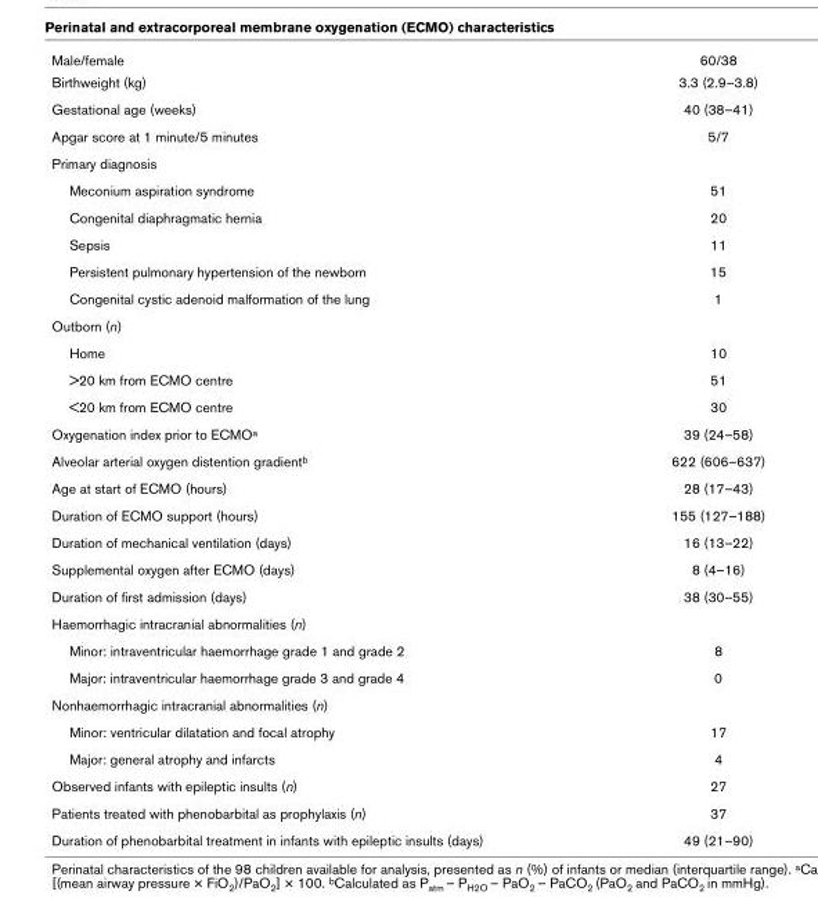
<table><tbody><tr><td>Male/female</td><td>60/38</td></tr><tr><td>Birthweight (kg)</td><td>3.3 (2.9–3.8)</td></tr><tr><td>Gestational age (weeks)</td><td>40 (38–41)</td></tr><tr><td>Apgar score at 1 minute/5 minutes</td><td>5/7</td></tr><tr><td colspan="2">Primary diagnosis</td></tr><tr><td>Meconium aspiration syndrome</td><td>51</td></tr><tr><td>Congenital diaphragmatic hernia</td><td>20</td></tr><tr><td>Sepsis</td><td>11</td></tr><tr><td>Persistent pulmonary hypertension of the newborn</td><td>15</td></tr><tr><td>Congenital cystic adenoid malformation of the lung</td><td>1</td></tr><tr><td colspan="2">Outborn (n)</td></tr><tr><td>Home</td><td>10</td></tr><tr><td>&gt;20 km from ECMO centre</td><td>51</td></tr><tr><td>&lt;20 km from ECMO centre</td><td>30</td></tr><tr><td>Oxygenation index prior to ECMOa</td><td>39 (24–58)</td></tr><tr><td>Alveolar arterial oxygen distention gradientb</td><td>622 (606–637)</td></tr><tr><td>Age at start of ECMO (hours)</td><td>28 (17–43)</td></tr><tr><td>Duration of ECMO support (hours)</td><td>155 (127–188)</td></tr><tr><td>Duration of mechanical ventilation (days)</td><td>16 (13–22)</td></tr><tr><td>Supplemental oxygen after ECMO (days)</td><td>8 (4–16)</td></tr><tr><td>Duration of first admission (days)</td><td>38 (30–55)</td></tr><tr><td colspan="2">Haemorrhagic intracranial abnormalities (n)</td></tr><tr><td>Minor: intraventricular haemorrhage grade 1 and grade 2</td><td>8</td></tr><tr><td>Major: intraventricular haemorrhage grade 3 and grade 4</td><td>0</td></tr><tr><td colspan="2">Nonhaemorrhagic intracranial abnormalities (n)</td></tr><tr><td>Minor: ventricular dilatation and focal atrophy</td><td>17</td></tr><tr><td>Major: general atrophy and infarcts</td><td>4</td></tr><tr><td>Observed infants with epileptic insults (n)</td><td>27</td></tr><tr><td>Patients treated with phenobarbital as prophylaxis (n)</td><td>37</td></tr><tr><td>Duration of phenobarbital treatment in infants with epileptic insults (days)</td><td>49 (21–90)</td></tr></tbody></table>